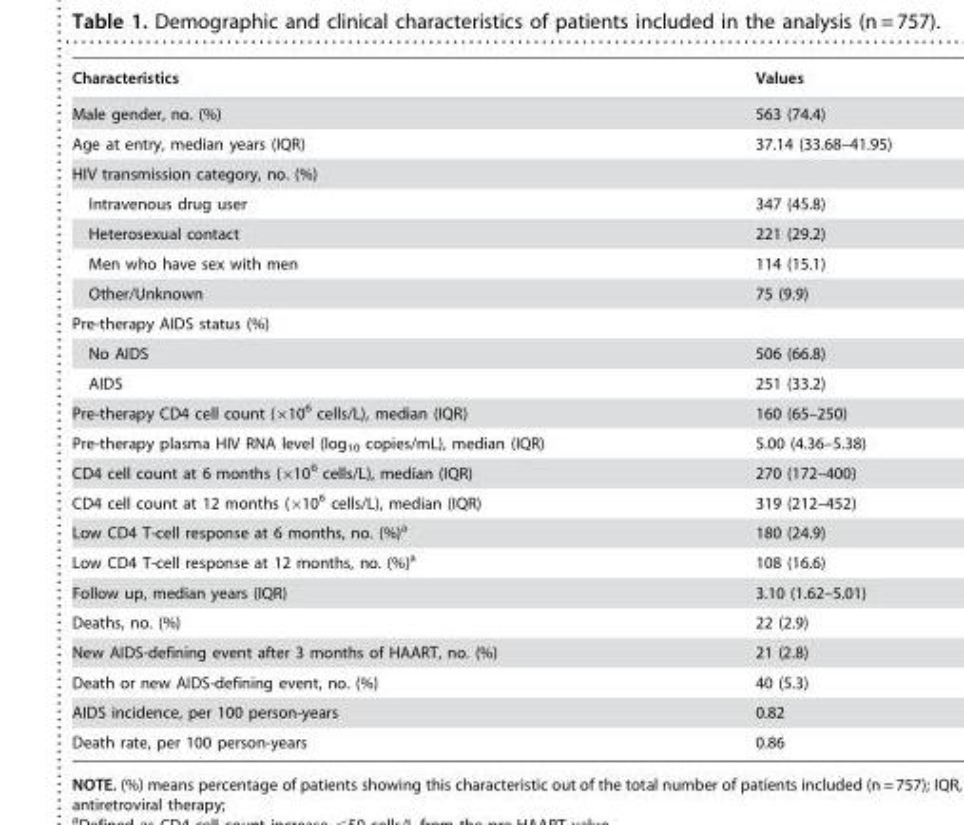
<table><thead><tr><td>Characteristics</td><td>Values</td></tr></thead><tbody><tr><td>Male gender, no. (%)</td><td>563 (74.4)</td></tr><tr><td>Age at entry, median years (IQR)</td><td>37.14 (33.68–41.95)</td></tr><tr><td colspan="2">HIV transmission category, no. (%)</td></tr><tr><td>Intravenous drug user</td><td>347 (45.8)</td></tr><tr><td>Heterosexual contact</td><td>221 (29.2)</td></tr><tr><td>Men who have sex with men</td><td>114 (15.1)</td></tr><tr><td>Other/Unknown</td><td>75 (9.9)</td></tr><tr><td colspan="2">Pre-therapy AIDS status (%)</td></tr><tr><td>No AIDS</td><td>506 (66.8)</td></tr><tr><td>AIDS</td><td>251 (33.2)</td></tr><tr><td>Pre-therapy CD4 cell count (×10<sup>6</sup> cells/L), median (IQR)</td><td>160 (65–250)</td></tr><tr><td>Pre-therapy plasma HIV RNA level (log<sub>10</sub> copies/mL), median (IQR)</td><td>5.00 (4.36–5.38)</td></tr><tr><td>CD4 cell count at 6 months (×10<sup>6</sup> cells/L), median (IQR)</td><td>270 (172–400)</td></tr><tr><td>CD4 cell count at 12 months (×10<sup>6</sup> cells/L), median (IQR)</td><td>319 (212–452)</td></tr><tr><td>Low CD4 T-cell response at 6 months, no. (%)<sup>a</sup></td><td>180 (24.9)</td></tr><tr><td>Low CD4 T-cell response at 12 months, no. (%)<sup>a</sup></td><td>108 (16.6)</td></tr><tr><td>Follow up, median years (IQR)</td><td>3.10 (1.62–5.01)</td></tr><tr><td>Deaths, no. (%)</td><td>22 (2.9)</td></tr><tr><td>New AIDS-defining event after 3 months of HAART, no. (%)</td><td>21 (2.8)</td></tr><tr><td>Death or new AIDS-defining event, no. (%)</td><td>40 (5.3)</td></tr><tr><td>AIDS incidence, per 100 person-years</td><td>0.82</td></tr><tr><td>Death rate, per 100 person-years</td><td>0.86</td></tr></tbody></table>